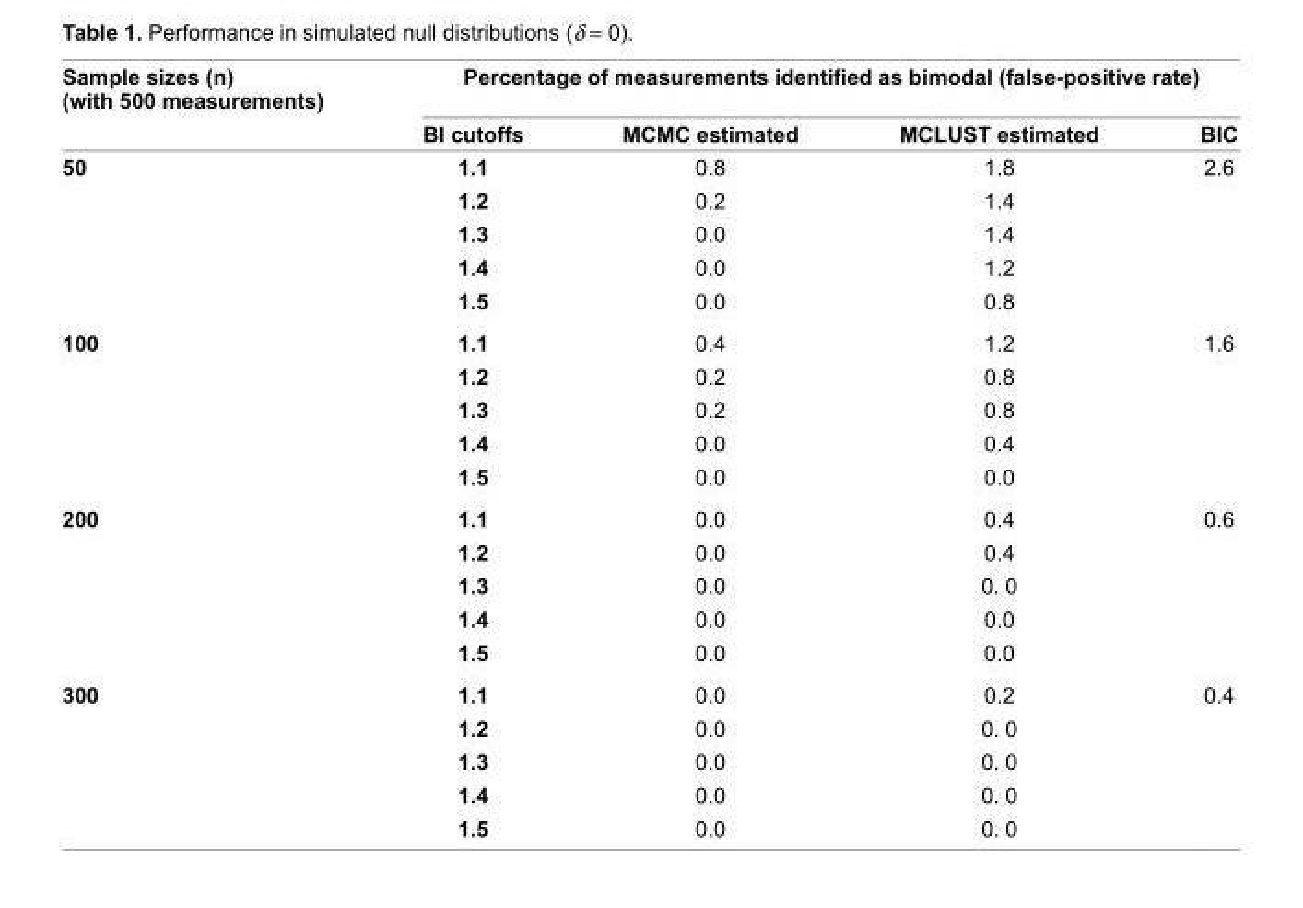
<table><thead><tr><td rowspan="2">sample sizes (n) (with 500 measurements)</td><td colspan="4">Percentage of measurements identified as bimodal (false-positive rate)</td></tr><tr><td>BI cutoffs</td><td>McMc estimated</td><td>McLUsT estimated</td><td>BIc</td></tr></thead><tbody><tr><td rowspan="5">50</td><td>1.1</td><td>0.8</td><td>1.8</td><td>2.6</td></tr><tr><td>1.2</td><td>0.2</td><td>1.4</td><td></td></tr><tr><td>1.3</td><td>0.0</td><td>1.4</td><td></td></tr><tr><td>1.4</td><td>0.0</td><td>1.2</td><td></td></tr><tr><td>1.5</td><td>0.0</td><td>0.8</td><td></td></tr><tr><td rowspan="5">100</td><td>1.1</td><td>0.4</td><td>1.2</td><td>1.6</td></tr><tr><td>1.2</td><td>0.2</td><td>0.8</td><td></td></tr><tr><td>1.3</td><td>0.2</td><td>0.8</td><td></td></tr><tr><td>1.4</td><td>0.0</td><td>0.4</td><td></td></tr><tr><td>1.5</td><td>0.0</td><td>0.0</td><td></td></tr><tr><td rowspan="5">200</td><td>1.1</td><td>0.0</td><td>0.4</td><td>0.6</td></tr><tr><td>1.2</td><td>0.0</td><td>0.4</td><td></td></tr><tr><td>1.3</td><td>0.0</td><td>0. 0</td><td></td></tr><tr><td>1.4</td><td>0.0</td><td>0.0</td><td></td></tr><tr><td>1.5</td><td>0.0</td><td>0.0</td><td></td></tr><tr><td rowspan="5">300</td><td>1.1</td><td>0.0</td><td>0.2</td><td>0.4</td></tr><tr><td>1.2</td><td>0.0</td><td>0. 0</td><td></td></tr><tr><td>1.3</td><td>0.0</td><td>0. 0</td><td></td></tr><tr><td>1.4</td><td>0.0</td><td>0. 0</td><td></td></tr><tr><td>1.5</td><td>0.0</td><td>0. 0</td><td></td></tr></tbody></table>